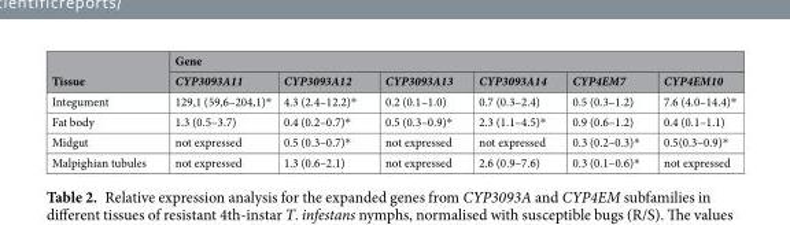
<table><thead><tr><td rowspan="2">Tissue</td><td colspan="6">Gene</td></tr><tr><td>CYP3093A11</td><td>CYP3093A12</td><td>CYP3093A13</td><td>CYP3093A14</td><td>CYP4EM7</td><td>CYP4EM10</td></tr></thead><tbody><tr><td>Integument</td><td>129,1 (59,6–204,1)*</td><td>4.3 (2.4–12.2)*</td><td>0.2 (0.1–1.0)</td><td>0.7 (0.3–2.4)</td><td>0.5 (0.3–1.2)</td><td>7.6 (4.0–14.4)*</td></tr><tr><td>Fat body</td><td>1.3 (0.5–3.7)</td><td>0.4 (0.2–0.7)*</td><td>0.5 (0.3–0.9)*</td><td>2.3 (1.1–4.5)*</td><td>0.9 (0.6–1.2)</td><td>0.4 (0.1–1.1)</td></tr><tr><td>Midgut</td><td>not expressed</td><td>0.5 (0.3–0.7)*</td><td>not expressed</td><td>not expressed</td><td>0.3 (0.2–0.3)*</td><td>0.5(0.3–0.9)*</td></tr><tr><td>Malpighian tubules</td><td>not expressed</td><td>1.3 (0.6–2.1)</td><td>not expressed</td><td>2.6 (0.9–7.6)</td><td>0.3 (0.1–0.6)*</td><td>not expressed</td></tr></tbody></table>